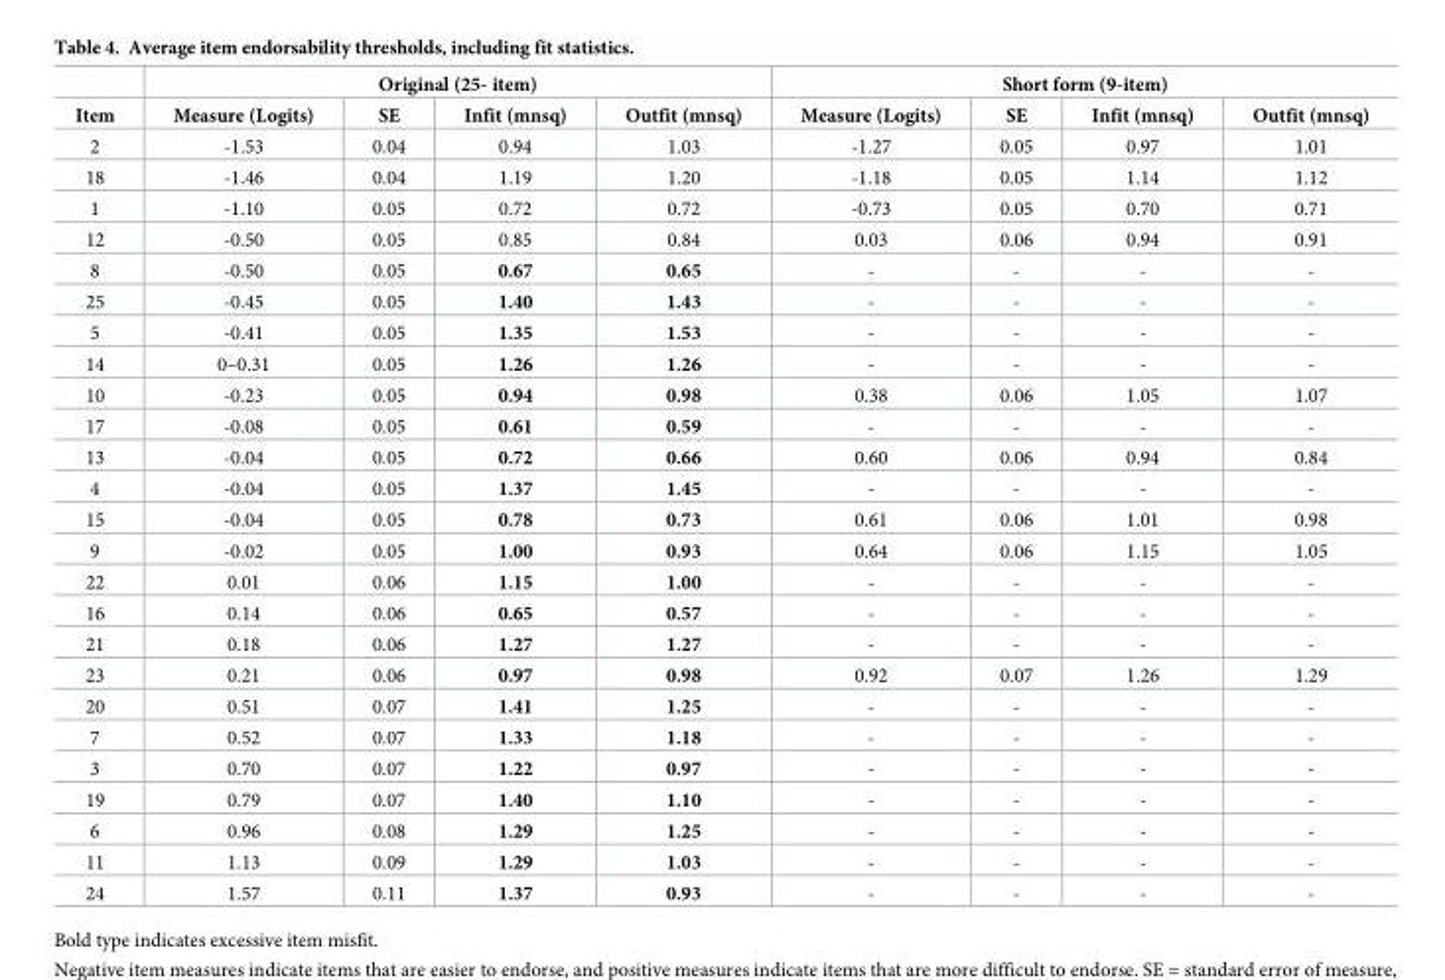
<table><thead><tr><td rowspan="2">Item</td><td colspan="4">Original (25- item)</td><td colspan="4">Short form (9-item)</td></tr><tr><td>Measure (Logits)</td><td>SE</td><td>Infit (mnsq)</td><td>Outfit (mnsq)</td><td>Measure (Logits)</td><td>SE</td><td>Infit (mnsq)</td><td>Outfit (mnsq)</td></tr></thead><tbody><tr><td>2</td><td>-1.53</td><td>0.04</td><td>0.94</td><td>1.03</td><td>-1.27</td><td>0.05</td><td>0.97</td><td>1.01</td></tr><tr><td>18</td><td>-1.46</td><td>0.04</td><td>1.19</td><td>1.20</td><td>-1.18</td><td>0.05</td><td>1.14</td><td>1.12</td></tr><tr><td>1</td><td>-1.10</td><td>0.05</td><td>0.72</td><td>0.72</td><td>-0.73</td><td>0.05</td><td>0.70</td><td>0.71</td></tr><tr><td>12</td><td>-0.50</td><td>0.05</td><td>0.85</td><td>0.84</td><td>0.03</td><td>0.06</td><td>0.94</td><td>0.91</td></tr><tr><td>8</td><td>-0.50</td><td>0.05</td><td>0.67</td><td>0.65</td><td>-</td><td>-</td><td>-</td><td>-</td></tr><tr><td>25</td><td>-0.45</td><td>0.05</td><td>1.40</td><td>1.43</td><td>-</td><td>-</td><td>-</td><td>-</td></tr><tr><td>5</td><td>-0.41</td><td>0.05</td><td>1.35</td><td>1.53</td><td>-</td><td>-</td><td>-</td><td>-</td></tr><tr><td>14</td><td>0–0.31</td><td>0.05</td><td>1.26</td><td>1.26</td><td>-</td><td>-</td><td>-</td><td>-</td></tr><tr><td>10</td><td>-0.23</td><td>0.05</td><td>0.94</td><td>0.98</td><td>0.38</td><td>0.06</td><td>1.05</td><td>1.07</td></tr><tr><td>17</td><td>-0.08</td><td>0.05</td><td>0.61</td><td>0.59</td><td>-</td><td>-</td><td>-</td><td>-</td></tr><tr><td>13</td><td>-0.04</td><td>0.05</td><td>0.72</td><td>0.66</td><td>0.60</td><td>0.06</td><td>0.94</td><td>0.84</td></tr><tr><td>4</td><td>-0.04</td><td>0.05</td><td>1.37</td><td>1.45</td><td>-</td><td>-</td><td>-</td><td>-</td></tr><tr><td>15</td><td>-0.04</td><td>0.05</td><td>0.78</td><td>0.73</td><td>0.61</td><td>0.06</td><td>1.01</td><td>0.98</td></tr><tr><td>9</td><td>-0.02</td><td>0.05</td><td>1.00</td><td>0.93</td><td>0.64</td><td>0.06</td><td>1.15</td><td>1.05</td></tr><tr><td>22</td><td>0.01</td><td>0.06</td><td>1.15</td><td>1.00</td><td>-</td><td>-</td><td>-</td><td>-</td></tr><tr><td>16</td><td>0.14</td><td>0.06</td><td>0.65</td><td>0.57</td><td>-</td><td>-</td><td>-</td><td>-</td></tr><tr><td>21</td><td>0.18</td><td>0.06</td><td>1.27</td><td>1.27</td><td>-</td><td>-</td><td>-</td><td>-</td></tr><tr><td>23</td><td>0.21</td><td>0.06</td><td>0.97</td><td>0.98</td><td>0.92</td><td>0.07</td><td>1.26</td><td>1.29</td></tr><tr><td>20</td><td>0.51</td><td>0.07</td><td>1.41</td><td>1.25</td><td>-</td><td>-</td><td>-</td><td>-</td></tr><tr><td>7</td><td>0.52</td><td>0.07</td><td>1.33</td><td>1.18</td><td>-</td><td>-</td><td>-</td><td>-</td></tr><tr><td>3</td><td>0.70</td><td>0.07</td><td>1.22</td><td>0.97</td><td>-</td><td>-</td><td>-</td><td>-</td></tr><tr><td>19</td><td>0.79</td><td>0.07</td><td>1.40</td><td>1.10</td><td>-</td><td>-</td><td>-</td><td>-</td></tr><tr><td>6</td><td>0.96</td><td>0.08</td><td>1.29</td><td>1.25</td><td>-</td><td>-</td><td>-</td><td>-</td></tr><tr><td>11</td><td>1.13</td><td>0.09</td><td>1.29</td><td>1.03</td><td>-</td><td>-</td><td>-</td><td>-</td></tr><tr><td>24</td><td>1.57</td><td>0.11</td><td>1.37</td><td>0.93</td><td>-</td><td>-</td><td>-</td><td>-</td></tr></tbody></table>